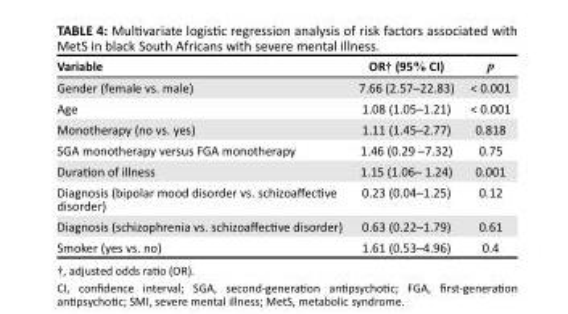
<table><thead><tr><td>Variable</td><td>OR† (95% CI)</td><td>p</td></tr></thead><tbody><tr><td>Gender (female vs. male)</td><td>7.66 (2.57–22.83)</td><td>&lt; 0.001</td></tr><tr><td>Age</td><td>1.08 (1.05–1.21)</td><td>&lt; 0.001</td></tr><tr><td>Monotherapy (no vs. yes)</td><td>1.11 (1.45–2.77)</td><td>0.818</td></tr><tr><td>SGA monotherapy versus FGA monotherapy</td><td>1.46 (0.29 –7.32)</td><td>0.75</td></tr><tr><td>Duration of illness</td><td>1.15 (1.06– 1.24)</td><td>0.001</td></tr><tr><td>Diagnosis (bipolar mood disorder vs. schizoaffective disorder)</td><td>0.23 (0.04–1.25)</td><td>0.12</td></tr><tr><td>Diagnosis (schizophrenia vs. schizoaffective disorder)</td><td>0.63 (0.22–1.79)</td><td>0.61</td></tr><tr><td>Smoker (yes vs. no)</td><td>1.61 (0.53–4.96)</td><td>0.4</td></tr></tbody></table>